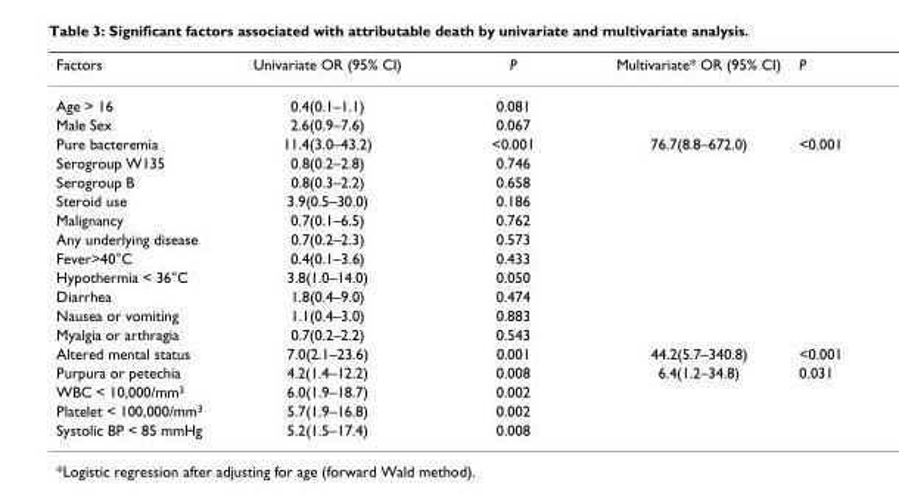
<table><thead><tr><td>Factors</td><td>Univariate OR (95% CI)</td><td>P</td><td>Multivariate* OR (95% CI)</td><td>P</td></tr></thead><tbody><tr><td>Age &gt; 16</td><td>0.4(0.1–1.1)</td><td>0.081</td><td></td><td></td></tr><tr><td>Male Sex</td><td>2.6(0.9–7.6)</td><td>0.067</td><td></td><td></td></tr><tr><td>Pure bacteremia</td><td>11.4(3.0–43.2)</td><td>&lt;0.001</td><td>76.7(8.8–672.0)</td><td>&lt;0.001</td></tr><tr><td>Serogroup W135</td><td>0.8(0.2–2.8)</td><td>0.746</td><td></td><td></td></tr><tr><td>Serogroup B</td><td>0.8(0.3–2.2)</td><td>0.658</td><td></td><td></td></tr><tr><td>Steroid use</td><td>3.9(0.5–30.0)</td><td>0.186</td><td></td><td></td></tr><tr><td>Malignancy</td><td>0.7(0.1–6.5)</td><td>0.762</td><td></td><td></td></tr><tr><td>Any underlying disease</td><td>0.7(0.2–2.3)</td><td>0.573</td><td></td><td></td></tr><tr><td>Fever&gt;40°C</td><td>0.4(0.1–3.6)</td><td>0.433</td><td></td><td></td></tr><tr><td>Hypothermia &lt; 36°C</td><td>3.8(1.0–14.0)</td><td>0.050</td><td></td><td></td></tr><tr><td>Diarrhea</td><td>1.8(0.4–9.0)</td><td>0.474</td><td></td><td></td></tr><tr><td>Nausea or vomiting</td><td>1.1(0.4–3.0)</td><td>0.883</td><td></td><td></td></tr><tr><td>Myalgia or arthragia</td><td>0.7(0.2–2.2)</td><td>0.543</td><td></td><td></td></tr><tr><td>Altered mental status</td><td>7.0(2.1–23.6)</td><td>0.001</td><td>44.2(5.7–340.8)</td><td>&lt;0.001</td></tr><tr><td>Purpura or petechia</td><td>4.2(1.4–12.2)</td><td>0.008</td><td>6.4(1.2–34.8)</td><td>0.031</td></tr><tr><td>WBC &lt; 10,000/mm<sup>3</sup></td><td>6.0(1.9–18.7)</td><td>0.002</td><td></td><td></td></tr><tr><td>Platelet &lt; 100,000/mm<sup>3</sup></td><td>5.7(1.9–16.8)</td><td>0.002</td><td></td><td></td></tr><tr><td>Systolic BP &lt; 85 mmHg</td><td>5.2(1.5–17.4)</td><td>0.008</td><td></td><td></td></tr></tbody></table>